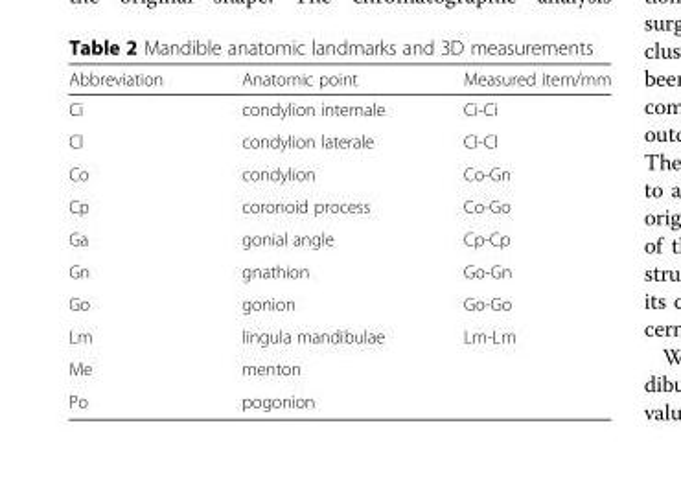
<table><thead><tr><td>Abbreviation</td><td>Anatomic point</td><td>Measured item/mm</td></tr></thead><tbody><tr><td>Ci</td><td>condylion internale</td><td>Ci-Ci</td></tr><tr><td>Cl</td><td>condylion laterale</td><td>Cl-Cl</td></tr><tr><td>Co</td><td>condylion</td><td>Co-Gn</td></tr><tr><td>Cp</td><td>coronoid process</td><td>Co-Go</td></tr><tr><td>Ga</td><td>gonial angle</td><td>Cp-Cp</td></tr><tr><td>Gn</td><td>gnathion</td><td>Go-Gn</td></tr><tr><td>Go</td><td>gonion</td><td>Go-Go</td></tr><tr><td>Lm</td><td>lingula mandibulae</td><td>Lm-Lm</td></tr><tr><td>Me</td><td>menton</td><td></td></tr><tr><td>Po</td><td>pogonion</td><td></td></tr></tbody></table>